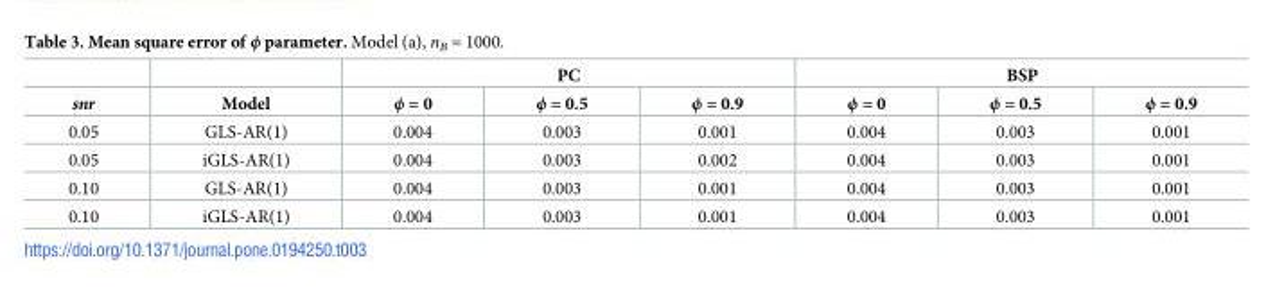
<table><thead><tr><td rowspan="2">snr</td><td rowspan="2">Model</td><td colspan="3">PC</td><td colspan="3">BSP</td></tr><tr><td>ϕ = 0</td><td>ϕ = 0.5</td><td>ϕ = 0.9</td><td>ϕ = 0</td><td>ϕ = 0.5</td><td>ϕ = 0.9</td></tr></thead><tbody><tr><td>0.05</td><td>GLS-AR(1)</td><td>0.004</td><td>0.003</td><td>0.001</td><td>0.004</td><td>0.003</td><td>0.001</td></tr><tr><td>0.05</td><td>iGLS-AR(1)</td><td>0.004</td><td>0.003</td><td>0.002</td><td>0.004</td><td>0.003</td><td>0.001</td></tr><tr><td>0.10</td><td>GLS-AR(1)</td><td>0.004</td><td>0.003</td><td>0.001</td><td>0.004</td><td>0.003</td><td>0.001</td></tr><tr><td>0.10</td><td>iGLS-AR(1)</td><td>0.004</td><td>0.003</td><td>0.001</td><td>0.004</td><td>0.003</td><td>0.001</td></tr></tbody></table>